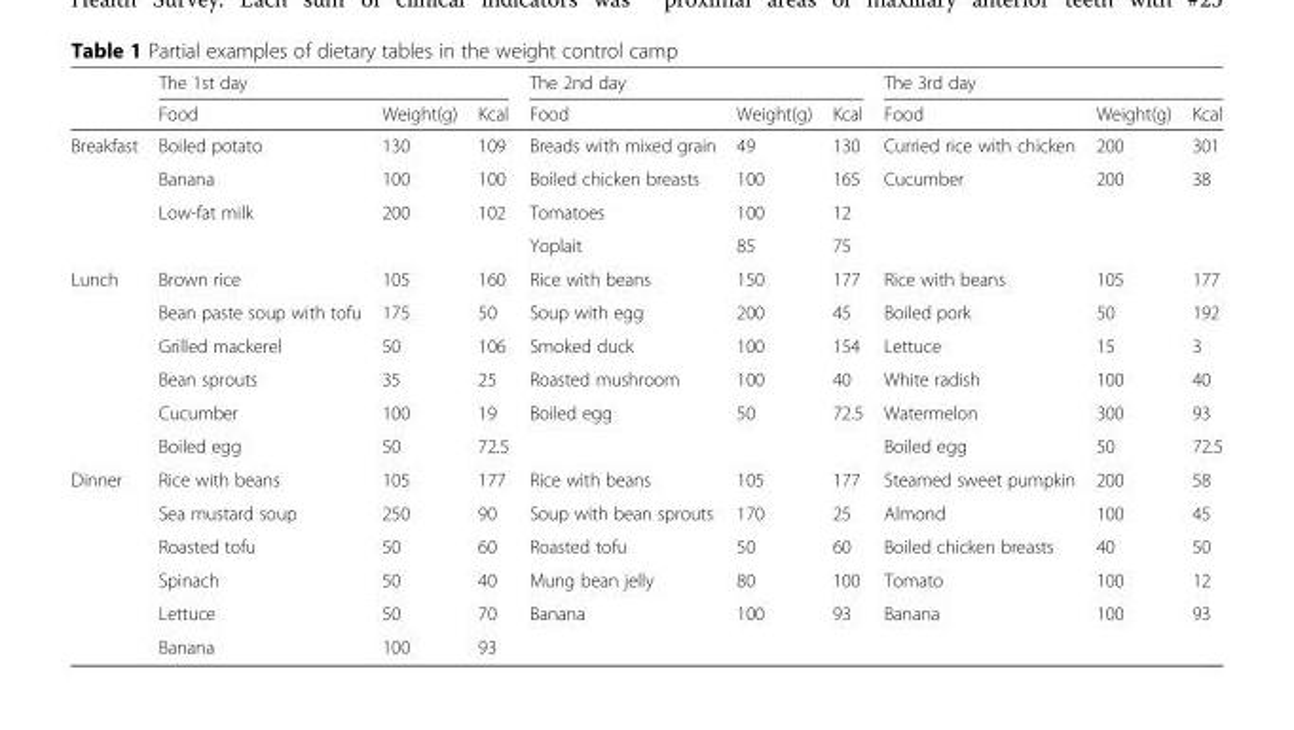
<table><thead><tr><td rowspan="2"></td><td colspan="3">The 1st day</td><td colspan="3">The 2nd day</td><td colspan="3">The 3rd day</td></tr><tr><td>Food</td><td>Weight(g)</td><td>Kcal</td><td>Food</td><td>Weight(g)</td><td>Kcal</td><td>Food</td><td>Weight(g)</td><td>Kcal</td></tr></thead><tbody><tr><td rowspan="4">Breakfast</td><td>Boiled potato</td><td>130</td><td>109</td><td>Breads with mixed grain</td><td>49</td><td>130</td><td>Curried rice with chicken</td><td>200</td><td>301</td></tr><tr><td>Banana</td><td>100</td><td>100</td><td>Boiled chicken breasts</td><td>100</td><td>165</td><td>Cucumber</td><td>200</td><td>38</td></tr><tr><td>Low-fat milk</td><td>200</td><td>102</td><td>Tomatoes</td><td>100</td><td>12</td><td></td><td></td><td></td></tr><tr><td></td><td></td><td></td><td>Yoplait</td><td>85</td><td>75</td><td></td><td></td><td></td></tr><tr><td rowspan="6">Lunch</td><td>Brown rice</td><td>105</td><td>160</td><td>Rice with beans</td><td>150</td><td>177</td><td>Rice with beans</td><td>105</td><td>177</td></tr><tr><td>Bean paste soup with tofu</td><td>175</td><td>50</td><td>Soup with egg</td><td>200</td><td>45</td><td>Boiled pork</td><td>50</td><td>192</td></tr><tr><td>Grilled mackerel</td><td>50</td><td>106</td><td>Smoked duck</td><td>100</td><td>154</td><td>Lettuce</td><td>15</td><td>3</td></tr><tr><td>Bean sprouts</td><td>35</td><td>25</td><td>Roasted mushroom</td><td>100</td><td>40</td><td>White radish</td><td>100</td><td>40</td></tr><tr><td>Cucumber</td><td>100</td><td>19</td><td>Boiled egg</td><td>50</td><td>72.5</td><td>Watermelon</td><td>300</td><td>93</td></tr><tr><td>Boiled egg</td><td>50</td><td>72.5</td><td></td><td></td><td></td><td>Boiled egg</td><td>50</td><td>72.5</td></tr><tr><td rowspan="6">Dinner</td><td>Rice with beans</td><td>105</td><td>177</td><td>Rice with beans</td><td>105</td><td>177</td><td>Steamed sweet pumpkin</td><td>200</td><td>58</td></tr><tr><td>Sea mustard soup</td><td>250</td><td>90</td><td>Soup with bean sprouts</td><td>170</td><td>25</td><td>Almond</td><td>100</td><td>45</td></tr><tr><td>Roasted tofu</td><td>50</td><td>60</td><td>Roasted tofu</td><td>50</td><td>60</td><td>Boiled chicken breasts</td><td>40</td><td>50</td></tr><tr><td>Spinach</td><td>50</td><td>40</td><td>Mung bean jelly</td><td>80</td><td>100</td><td>Tomato</td><td>100</td><td>12</td></tr><tr><td>Lettuce</td><td>50</td><td>70</td><td>Banana</td><td>100</td><td>93</td><td>Banana</td><td>100</td><td>93</td></tr><tr><td>Banana</td><td>100</td><td>93</td><td></td><td></td><td></td><td></td><td></td><td></td></tr></tbody></table>